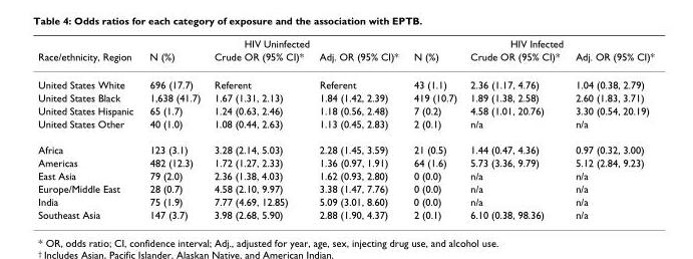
<table><thead><tr><td rowspan="2">Race/ethnicity, Region</td><td colspan="3">HIV Uninfected</td><td colspan="3">HIV Infected</td></tr><tr><td>N (%)</td><td>Crude OR (95% CI)*</td><td>Adj. OR (95% CI)*</td><td>N (%)</td><td>Crude OR (95% CI)*</td><td>Adj. OR (95% CI)*</td></tr></thead><tbody><tr><td>United States White</td><td>696 (17.7)</td><td>Referent</td><td>Referent</td><td>43 (1.1)</td><td>2.36 (1.17, 4.76)</td><td>1.04 (0.38, 2.79)</td></tr><tr><td>United States Black</td><td>1,638 (41.7)</td><td>1.67 (1.31, 2.13)</td><td>1.84 (1.42, 2.39)</td><td>419 (10.7)</td><td>1.89 (1.38, 2.58)</td><td>2.60 (1.83, 3.71)</td></tr><tr><td>United States Hispanic</td><td>65 (1.7)</td><td>1.24 (0.63, 2.46)</td><td>1.18 (0.56, 2.48)</td><td>7 (0.2)</td><td>4.58 (1.01, 20.76)</td><td>3.30 (0.54, 20.19)</td></tr><tr><td>United States Other</td><td>40 (1.0)</td><td>1.08 (0.44, 2.63)</td><td>1.13 (0.45, 2.83)</td><td>2 (0.1)</td><td>n/a</td><td>n/a</td></tr><tr><td>Africa</td><td>123 (3.1)</td><td>3.28 (2.14, 5.03)</td><td>2.28 (1.45, 3.59)</td><td>21 (0.5)</td><td>1.44 (0.47, 4.36)</td><td>0.97 (0.32, 3.00)</td></tr><tr><td>Americas</td><td>482 (12.3)</td><td>1.72 (1.27, 2.33)</td><td>1.36 (0.97, 1.91)</td><td>64 (1.6)</td><td>5.73 (3.36, 9.79)</td><td>5.12 (2.84, 9.23)</td></tr><tr><td>East Asia</td><td>79 (2.0)</td><td>2.36 (1.38, 4.03)</td><td>1.62 (0.93, 2.80)</td><td>0 (0.0)</td><td>n/a</td><td>n/a</td></tr><tr><td>Europe/Middle East</td><td>28 (0.7)</td><td>4.58 (2.10, 9.97)</td><td>3.38 (1.47, 7.76)</td><td>0 (0.0)</td><td>n/a</td><td>n/a</td></tr><tr><td>India</td><td>75 (1.9)</td><td>7.77 (4.69, 12.85)</td><td>5.09 (3.01, 8.60)</td><td>0 (0.0)</td><td>n/a</td><td>n/a</td></tr><tr><td>Southeast Asia</td><td>147 (3.7)</td><td>3.98 (2.68, 5.90)</td><td>2.88 (1.90, 4.37)</td><td>2 (0.1)</td><td>6.10 (0.38, 98.36)</td><td>n/a</td></tr></tbody></table>